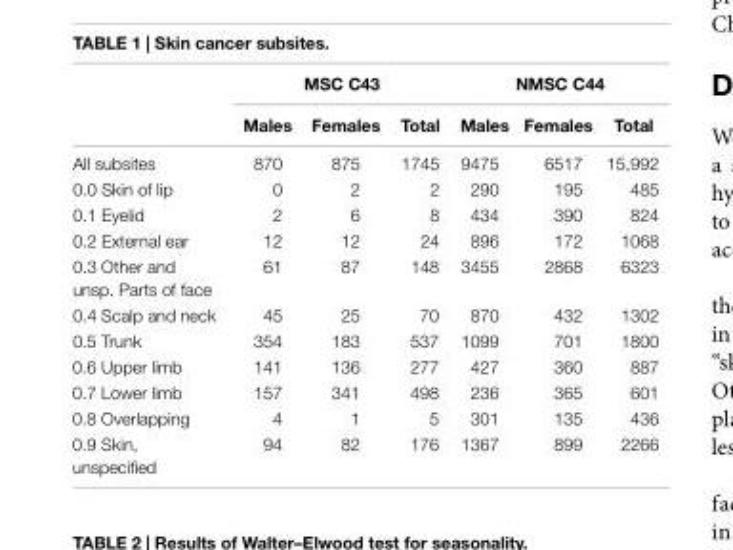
<table><thead><tr><td rowspan="2"></td><td colspan="3">Msc c43</td><td colspan="3">nMsc c44</td></tr><tr><td>Males</td><td>Females</td><td>Total</td><td>Males</td><td>Females</td><td>Total</td></tr></thead><tbody><tr><td>All subsites</td><td>870</td><td>875</td><td>1745</td><td>9475</td><td>6517</td><td>15,992</td></tr><tr><td>0.0 Skin of lip</td><td>0</td><td>2</td><td>2</td><td>290</td><td>195</td><td>485</td></tr><tr><td>0.1 Eyelid</td><td>2</td><td>6</td><td>8</td><td>434</td><td>390</td><td>824</td></tr><tr><td>0.2 External ear</td><td>12</td><td>12</td><td>24</td><td>896</td><td>172</td><td>1068</td></tr><tr><td>0.3 Other and unsp. Parts of face</td><td>61</td><td>87</td><td>148</td><td>3455</td><td>2868</td><td>6323</td></tr><tr><td>0.4 Scalp and neck</td><td>45</td><td>25</td><td>70</td><td>870</td><td>432</td><td>1302</td></tr><tr><td>0.5 Trunk</td><td>354</td><td>183</td><td>537</td><td>1099</td><td>701</td><td>1800</td></tr><tr><td>0.6 Upper limb</td><td>141</td><td>136</td><td>277</td><td>427</td><td>360</td><td>887</td></tr><tr><td>0.7 Lower limb</td><td>157</td><td>341</td><td>498</td><td>236</td><td>365</td><td>601</td></tr><tr><td>0.8 Overlapping</td><td>4</td><td>1</td><td>5</td><td>301</td><td>135</td><td>436</td></tr><tr><td>0.9 Skin, unspecified</td><td>94</td><td>82</td><td>176</td><td>1367</td><td>899</td><td>2266</td></tr></tbody></table>